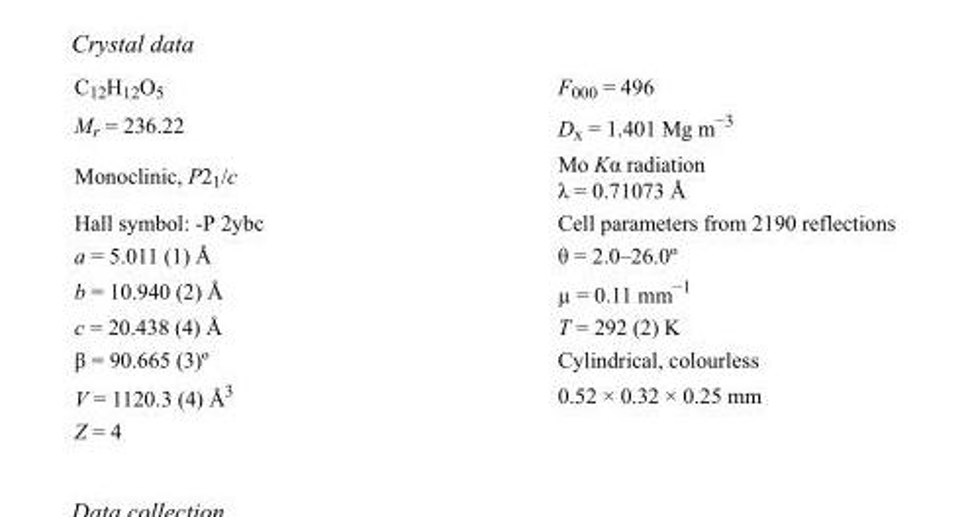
<table><tbody><tr><td>C<sub>12</sub>H<sub>12</sub>O<sub>5</sub></td><td>F<sub>000</sub> = 496</td></tr><tr><td>M<sub>r</sub> = 236.22</td><td>D<sub>x</sub> = 1.401 Mg m<sup>−3</sup></td></tr><tr><td>Monoclinic, P2<sub>1</sub>/c</td><td>Mo Kα radiation λ = 0.71073 Å</td></tr><tr><td>Hall symbol: -P 2ybc</td><td>Cell parameters from 2190 reflections</td></tr><tr><td>a = 5.011 (1) Å</td><td>θ = 2.0–26.0º</td></tr><tr><td>b = 10.940 (2) Å</td><td>µ = 0.11 mm<sup>−1</sup></td></tr><tr><td>c = 20.438 (4) Å</td><td>T = 292 (2) K</td></tr><tr><td>β = 90.665 (3)º</td><td>Cylindrical, colourless</td></tr><tr><td>V = 1120.3 (4) Å<sup>3</sup></td><td>0.52 × 0.32 × 0.25 mm</td></tr><tr><td>Z = 4</td><td></td></tr></tbody></table>